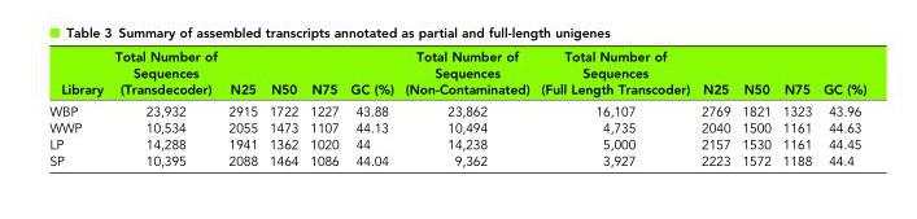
<table><thead><tr><td>Library</td><td>Total Number of Sequences (Transdecoder)</td><td>N25</td><td>N50</td><td>N75</td><td>GC (%)</td><td>Total Number of Sequences (Non-Contaminated)</td><td>Total Number of Sequences (Full Length Transcoder)</td><td>N25</td><td>N50</td><td>N75</td><td>GC (%)</td></tr></thead><tbody><tr><td>WBP</td><td>23,932</td><td>2915</td><td>1722</td><td>1227</td><td>43.88</td><td>23,862</td><td>16,107</td><td>2769</td><td>1821</td><td>1323</td><td>43.96</td></tr><tr><td>WWP</td><td>10,534</td><td>2055</td><td>1473</td><td>1107</td><td>44.13</td><td>10,494</td><td>4,735</td><td>2040</td><td>1500</td><td>1161</td><td>44.63</td></tr><tr><td>LP</td><td>14,288</td><td>1941</td><td>1362</td><td>1020</td><td>44</td><td>14,238</td><td>5,000</td><td>2157</td><td>1530</td><td>1161</td><td>44.45</td></tr><tr><td>SP</td><td>10,395</td><td>2088</td><td>1464</td><td>1086</td><td>44.04</td><td>9,362</td><td>3,927</td><td>2223</td><td>1572</td><td>1188</td><td>44.4</td></tr></tbody></table>